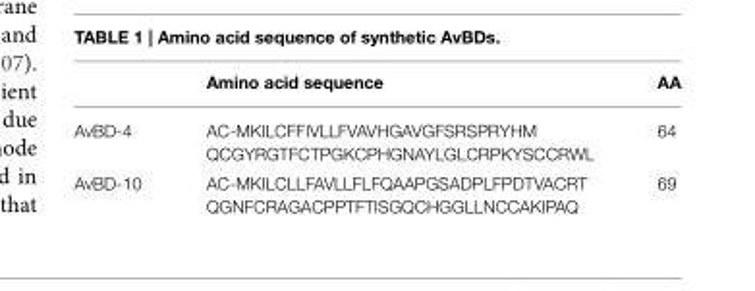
<table><thead><tr><td></td><td>Amino acid sequence</td><td>AA</td></tr></thead><tbody><tr><td>AvBD-4</td><td>AC-MKILCFFIVLLFVAVHGAVGFSRSPRYHM QCGYRGTFCTPGKCPHGNAYLGLCRPKYSCCRWL</td><td>64</td></tr><tr><td>AvBD-10</td><td>AC-MKILCLLFAVLLFLFQAAPGSADPLFPDTVACRT QGNFCRAGACPPTFTISGQCHGGLLNCCAKIPAQ</td><td>69</td></tr></tbody></table>